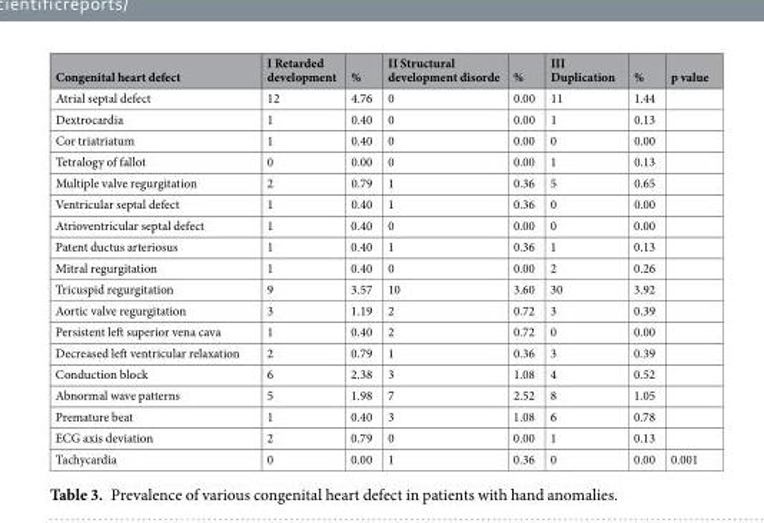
<table><thead><tr><td>Congenital heart defect</td><td>I Retarded development</td><td>%</td><td>II Structural development disorde</td><td>%</td><td>III Duplication</td><td>%</td><td>p value</td></tr></thead><tbody><tr><td>Atrial septal defect</td><td>12</td><td>4.76</td><td>0</td><td>0.00</td><td>11</td><td>1.44</td><td></td></tr><tr><td>Dextrocardia</td><td>1</td><td>0.40</td><td>0</td><td>0.00</td><td>1</td><td>0.13</td><td></td></tr><tr><td>Cor triatriatum</td><td>1</td><td>0.40</td><td>0</td><td>0.00</td><td>0</td><td>0.00</td><td></td></tr><tr><td>Tetralogy of fallot</td><td>0</td><td>0.00</td><td>0</td><td>0.00</td><td>1</td><td>0.13</td><td></td></tr><tr><td>Multiple valve regurgitation</td><td>2</td><td>0.79</td><td>1</td><td>0.36</td><td>5</td><td>0.65</td><td></td></tr><tr><td>Ventricular septal defect</td><td>1</td><td>0.40</td><td>1</td><td>0.36</td><td>0</td><td>0.00</td><td></td></tr><tr><td>Atrioventricular septal defect</td><td>1</td><td>0.40</td><td>0</td><td>0.00</td><td>0</td><td>0.00</td><td></td></tr><tr><td>Patent ductus arteriosus</td><td>1</td><td>0.40</td><td>1</td><td>0.36</td><td>1</td><td>0.13</td><td></td></tr><tr><td>Mitral regurgitation</td><td>1</td><td>0.40</td><td>0</td><td>0.00</td><td>2</td><td>0.26</td><td></td></tr><tr><td>Tricuspid regurgitation</td><td>9</td><td>3.57</td><td>10</td><td>3.60</td><td>30</td><td>3.92</td><td></td></tr><tr><td>Aortic valve regurgitation</td><td>3</td><td>1.19</td><td>2</td><td>0.72</td><td>3</td><td>0.39</td><td></td></tr><tr><td>Persistent left superior vena cava</td><td>1</td><td>0.40</td><td>2</td><td>0.72</td><td>0</td><td>0.00</td><td></td></tr><tr><td>Decreased left ventricular relaxation</td><td>2</td><td>0.79</td><td>1</td><td>0.36</td><td>3</td><td>0.39</td><td></td></tr><tr><td>Conduction block</td><td>6</td><td>2.38</td><td>3</td><td>1.08</td><td>4</td><td>0.52</td><td></td></tr><tr><td>Abnormal wave patterns</td><td>5</td><td>1.98</td><td>7</td><td>2.52</td><td>8</td><td>1.05</td><td></td></tr><tr><td>Premature beat</td><td>1</td><td>0.40</td><td>3</td><td>1.08</td><td>6</td><td>0.78</td><td></td></tr><tr><td>ECG axis deviation</td><td>2</td><td>0.79</td><td>0</td><td>0.00</td><td>1</td><td>0.13</td><td></td></tr><tr><td>Tachycardia</td><td>0</td><td>0.00</td><td>1</td><td>0.36</td><td>0</td><td>0.00</td><td>0.001</td></tr></tbody></table>